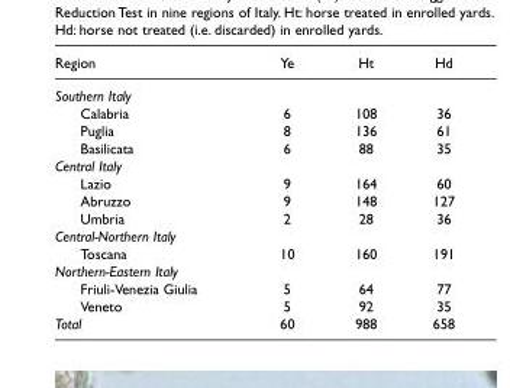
<table><thead><tr><td>Region</td><td>Ye</td><td>Ht</td><td>Hd</td></tr></thead><tbody><tr><td colspan="4">Southern Italy</td></tr><tr><td>Calabria</td><td>6</td><td>108</td><td>36</td></tr><tr><td>Puglia</td><td>8</td><td>136</td><td>61</td></tr><tr><td>Basilicata</td><td>6</td><td>88</td><td>35</td></tr><tr><td colspan="4">Central Italy</td></tr><tr><td>Lazio</td><td>9</td><td>164</td><td>60</td></tr><tr><td>Abruzzo</td><td>9</td><td>148</td><td>127</td></tr><tr><td>Umbria</td><td>2</td><td>28</td><td>36</td></tr><tr><td colspan="4">Central-Northern Italy</td></tr><tr><td>Toscana</td><td>10</td><td>160</td><td>191</td></tr><tr><td colspan="4">Northern-Eastern Italy</td></tr><tr><td>Friuli-Venezia Giulia</td><td>5</td><td>64</td><td>77</td></tr><tr><td>Veneto</td><td>5</td><td>92</td><td>35</td></tr><tr><td>Total</td><td>60</td><td>988</td><td>658</td></tr></tbody></table>